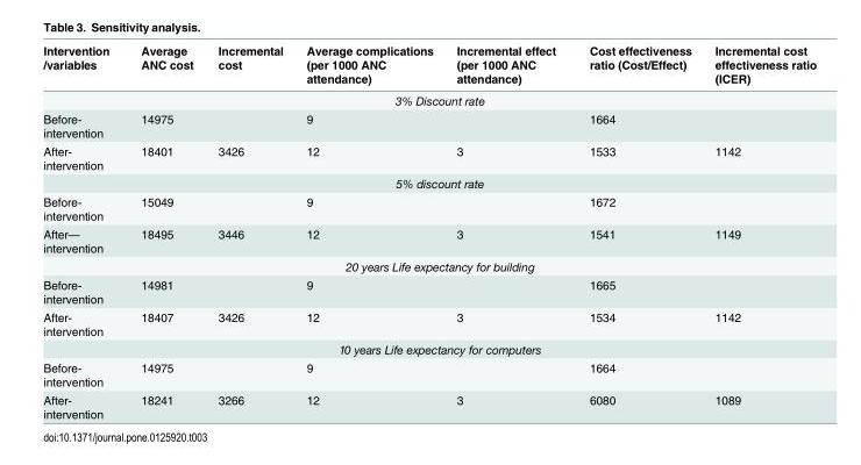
<table><thead><tr><td>Intervention /variables</td><td>Average ANC cost</td><td>Incremental cost</td><td>Average complications (per 1000 ANC attendance)</td><td>Incremental effect (per 1000 ANC attendance)</td><td>Cost effectiveness ratio (Cost/Effect)</td><td>Incremental cost effectiveness ratio (ICER)</td></tr></thead><tbody><tr><td colspan="7">3% Discount rate</td></tr><tr><td>Before- intervention</td><td>14975</td><td></td><td>9</td><td></td><td>1664</td><td></td></tr><tr><td>After- intervention</td><td>18401</td><td>3426</td><td>12</td><td>3</td><td>1533</td><td>1142</td></tr><tr><td colspan="7">5% discount rate</td></tr><tr><td>Before- intervention</td><td>15049</td><td></td><td>9</td><td></td><td>1672</td><td></td></tr><tr><td>After— intervention</td><td>18495</td><td>3446</td><td>12</td><td>3</td><td>1541</td><td>1149</td></tr><tr><td colspan="7">20 years Life expectancy for building</td></tr><tr><td>Before- intervention</td><td>14981</td><td></td><td>9</td><td></td><td>1665</td><td></td></tr><tr><td>After- intervention</td><td>18407</td><td>3426</td><td>12</td><td>3</td><td>1534</td><td>1142</td></tr><tr><td colspan="7">10 years Life expectancy for computers</td></tr><tr><td>Before- intervention</td><td>14975</td><td></td><td>9</td><td></td><td>1664</td><td></td></tr><tr><td>After- intervention</td><td>18241</td><td>3266</td><td>12</td><td>3</td><td>6080</td><td>1089</td></tr></tbody></table>